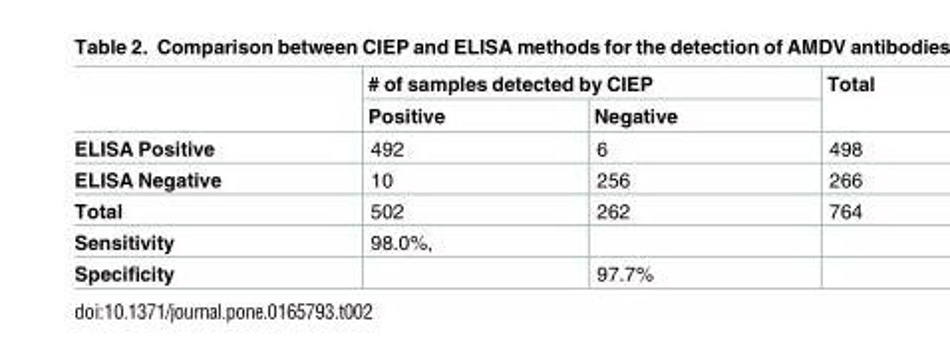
<table><thead><tr><td rowspan="2"></td><td colspan="2"># of samples detected by CIEP</td><td rowspan="2">Total</td></tr><tr><td>Positive</td><td>Negative</td></tr></thead><tbody><tr><td>ELISA Positive</td><td>492</td><td>6</td><td>498</td></tr><tr><td>ELISA Negative</td><td>10</td><td>256</td><td>266</td></tr><tr><td>Total</td><td>502</td><td>262</td><td>764</td></tr><tr><td>Sensitivity</td><td>98.0%,</td><td></td><td></td></tr><tr><td>Specificity</td><td></td><td>97.7%</td><td></td></tr></tbody></table>